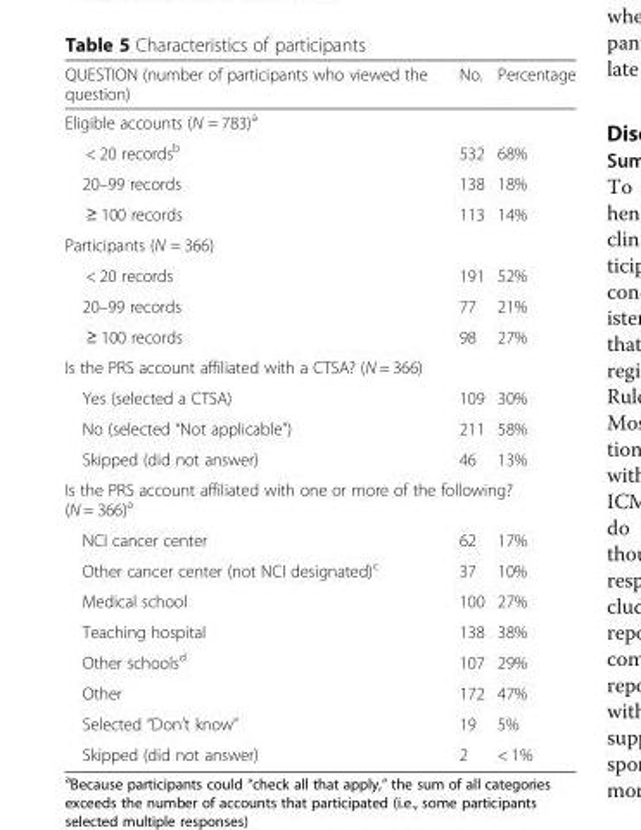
<table><thead><tr><td>QUESTION (number of participants who viewed the question)</td><td>No.</td><td>Percentage</td></tr></thead><tbody><tr><td colspan="3">Eligible accounts (N = 783)<sup>a</sup></td></tr><tr><td>&lt; 20 records<sup>b</sup></td><td>532</td><td>68%</td></tr><tr><td>20–99 records</td><td>138</td><td>18%</td></tr><tr><td>≥ 100 records</td><td>113</td><td>14%</td></tr><tr><td colspan="3">Participants (N = 366)</td></tr><tr><td>&lt; 20 records</td><td>191</td><td>52%</td></tr><tr><td>20–99 records</td><td>77</td><td>21%</td></tr><tr><td>≥ 100 records</td><td>98</td><td>27%</td></tr><tr><td colspan="3">Is the PRS account affiliated with a CTSA? (N = 366)</td></tr><tr><td>Yes (selected a CTSA)</td><td>109</td><td>30%</td></tr><tr><td>No (selected “Not applicable”)</td><td>211</td><td>58%</td></tr><tr><td>Skipped (did not answer)</td><td>46</td><td>13%</td></tr><tr><td colspan="3">Is the PRS account affiliated with one or more of the following? (N = 366)<sup>a</sup></td></tr><tr><td>NCI cancer center</td><td>62</td><td>17%</td></tr><tr><td>Other cancer center (not NCI designated)<sup>c</sup></td><td>37</td><td>10%</td></tr><tr><td>Medical school</td><td>100</td><td>27%</td></tr><tr><td>Teaching hospital</td><td>138</td><td>38%</td></tr><tr><td>Other schools<sup>d</sup></td><td>107</td><td>29%</td></tr><tr><td>Other</td><td>172</td><td>47%</td></tr><tr><td>Selected “Don’t know”</td><td>19</td><td>5%</td></tr><tr><td>Skipped (did not answer)</td><td>2</td><td>&lt; 1%</td></tr></tbody></table>